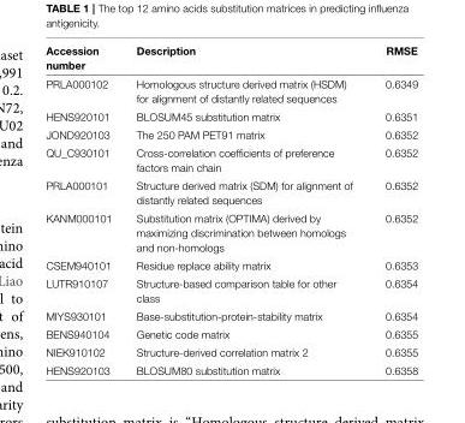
<table><thead><tr><td>Accession number</td><td>Description</td><td>RMSE</td></tr></thead><tbody><tr><td>PRLA000102</td><td>Homologous structure derived matrix (HSDM) for alignment of distantly related sequences</td><td>0.6349</td></tr><tr><td>HENS920101</td><td>BLOSUM45 substitution matrix</td><td>0.6351</td></tr><tr><td>JOND920103</td><td>The 250 PAM PET91 matrix</td><td>0.6352</td></tr><tr><td>QU_C930101</td><td>Cross-correlation coefficients of preference factors main chain</td><td>0.6352</td></tr><tr><td>PRLA000101</td><td>Structure derived matrix (SDM) for alignment of distantly related sequences</td><td>0.6352</td></tr><tr><td>KANM000101</td><td>Substitution matrix (OPTIMA) derived by maximizing discrimination between homologs and non-homologs</td><td>0.6352</td></tr><tr><td>CSEM940101</td><td>Residue replace ability matrix</td><td>0.6353</td></tr><tr><td>LUTR910107</td><td>Structure-based comparison table for other class</td><td>0.6354</td></tr><tr><td>MIYS930101</td><td>Base-substitution-protein-stability matrix</td><td>0.6354</td></tr><tr><td>BENS940104</td><td>Genetic code matrix</td><td>0.6355</td></tr><tr><td>NIEK910102</td><td>Structure-derived correlation matrix 2</td><td>0.6355</td></tr><tr><td>HENS920103</td><td>BLOSUM80 substitution matrix</td><td>0.6358</td></tr></tbody></table>